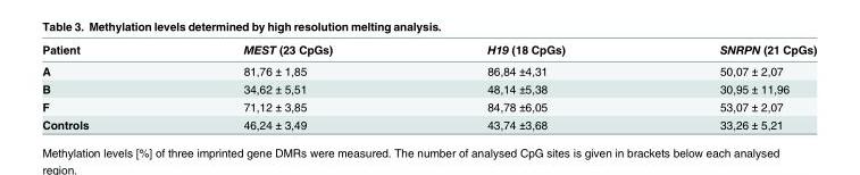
<table><thead><tr><td>Patient</td><td>MEST (23 CpGs)</td><td>H19 (18 CpGs)</td><td>SNRPN (21 CpGs)</td></tr></thead><tbody><tr><td>A</td><td>81,76 ± 1,85</td><td>86,84 ±4,31</td><td>50,07 ± 2,07</td></tr><tr><td>B</td><td>34,62 ± 5,51</td><td>48,14 ±5,38</td><td>30,95 ± 11,96</td></tr><tr><td>F</td><td>71,12 ± 3,85</td><td>84,78 ±6,05</td><td>53,07 ± 2,07</td></tr><tr><td>Controls</td><td>46,24 ± 3,49</td><td>43,74 ±3,68</td><td>33,26 ± 5,21</td></tr></tbody></table>